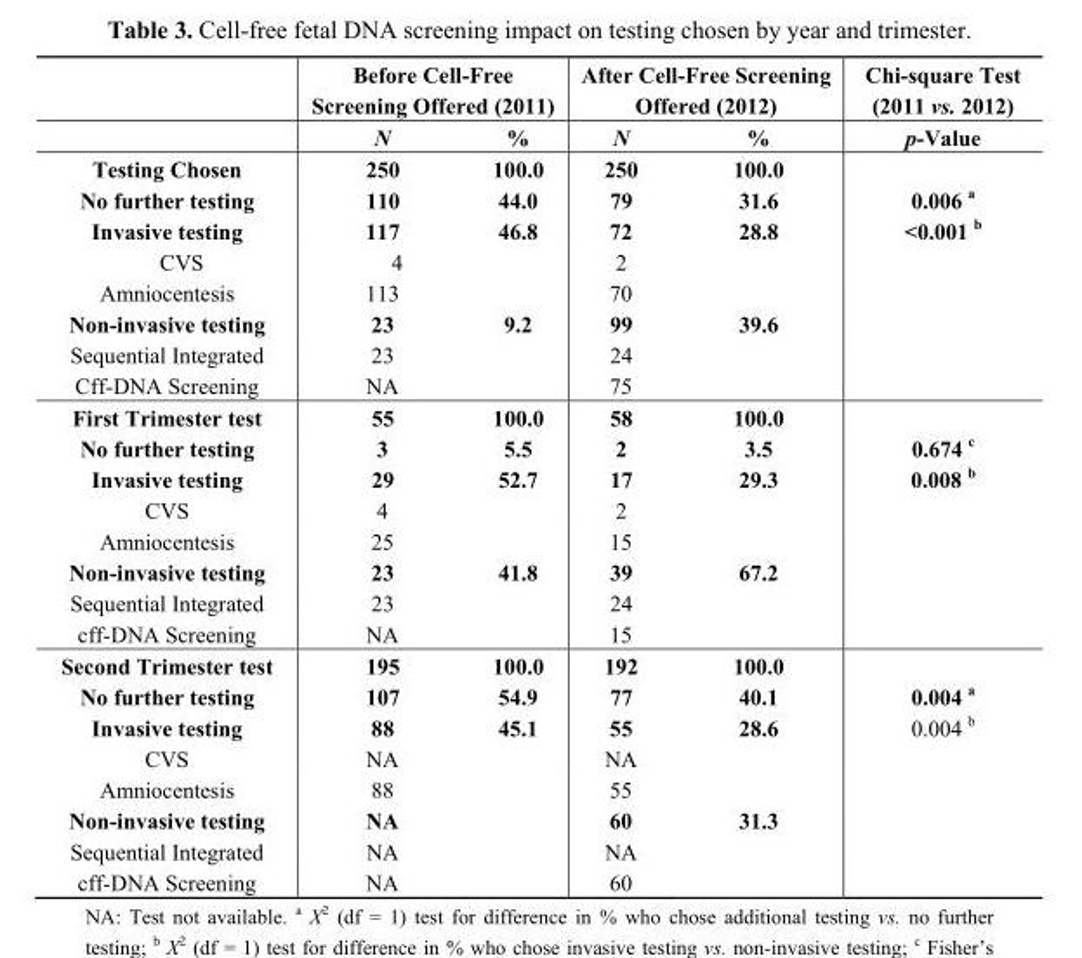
<table><thead><tr><td rowspan="2"></td><td colspan="2">Before Cell-Free Screening Offered (2011)</td><td colspan="2">After Cell-Free Screening Offered (2012)</td><td rowspan="2">Chi-square Test (2011 vs. 2012) p-Value</td></tr><tr><td>N</td><td>%</td><td>N</td><td>%</td></tr></thead><tbody><tr><td>Testing Chosen</td><td>250</td><td>100.0</td><td>250</td><td>100.0</td><td></td></tr><tr><td>No further testing</td><td>110</td><td>44.0</td><td>79</td><td>31.6</td><td>0.006 <sup>a</sup></td></tr><tr><td>Invasive testing</td><td>117</td><td>46.8</td><td>72</td><td>28.8</td><td>&lt;0.001 <sup>b</sup></td></tr><tr><td>CVS</td><td>4</td><td></td><td>2</td><td></td><td></td></tr><tr><td>Amniocentesis</td><td>113</td><td></td><td>70</td><td></td><td></td></tr><tr><td>Non-invasive testing</td><td>23</td><td>9.2</td><td>99</td><td>39.6</td><td></td></tr><tr><td>Sequential Integrated</td><td>23</td><td></td><td>24</td><td></td><td></td></tr><tr><td>Cff-DNA Screening</td><td>NA</td><td></td><td>75</td><td></td><td></td></tr><tr><td>First Trimester test</td><td>55</td><td>100.0</td><td>58</td><td>100.0</td><td></td></tr><tr><td>No further testing</td><td>3</td><td>5.5</td><td>2</td><td>3.5</td><td>0.674 <sup>c</sup></td></tr><tr><td>Invasive testing</td><td>29</td><td>52.7</td><td>17</td><td>29.3</td><td>0.008 <sup>b</sup></td></tr><tr><td>CVS</td><td>4</td><td></td><td>2</td><td></td><td></td></tr><tr><td>Amniocentesis</td><td>25</td><td></td><td>15</td><td></td><td></td></tr><tr><td>Non-invasive testing</td><td>23</td><td>41.8</td><td>39</td><td>67.2</td><td></td></tr><tr><td>Sequential Integrated</td><td>23</td><td></td><td>24</td><td></td><td></td></tr><tr><td>cff-DNA Screening</td><td>NA</td><td></td><td>15</td><td></td><td></td></tr><tr><td>Second Trimester test</td><td>195</td><td>100.0</td><td>192</td><td>100.0</td><td></td></tr><tr><td>No further testing</td><td>107</td><td>54.9</td><td>77</td><td>40.1</td><td>0.004 <sup>a</sup></td></tr><tr><td>Invasive testing</td><td>88</td><td>45.1</td><td>55</td><td>28.6</td><td>0.004 <sup>b</sup></td></tr><tr><td>CVS</td><td>NA</td><td></td><td>NA</td><td></td><td></td></tr><tr><td>Amniocentesis</td><td>88</td><td></td><td>55</td><td></td><td></td></tr><tr><td>Non-invasive testing</td><td>NA</td><td></td><td>60</td><td>31.3</td><td></td></tr><tr><td>Sequential Integrated</td><td>NA</td><td></td><td>NA</td><td></td><td></td></tr><tr><td>cff-DNA Screening</td><td>NA</td><td></td><td>60</td><td></td><td></td></tr></tbody></table>